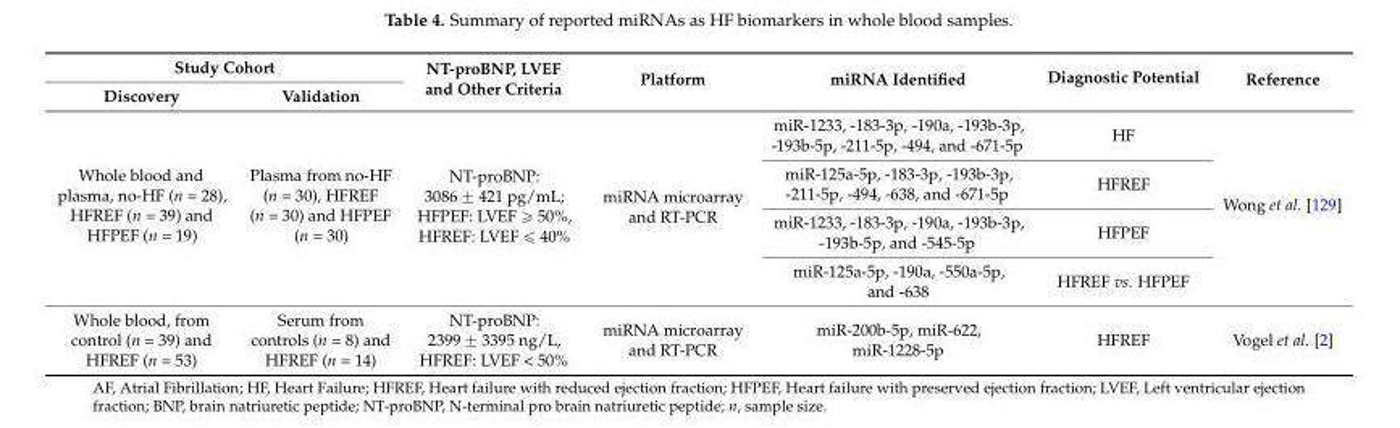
<table><thead><tr><td colspan="2">Study Cohort</td><td rowspan="2">NT-proBNP, LVEF and Other Criteria</td><td rowspan="2">Platform</td><td rowspan="2">miRNA Identified</td><td rowspan="2">Diagnostic Potential</td><td rowspan="2">Reference</td></tr><tr><td>Discovery</td><td>Validation</td></tr></thead><tbody><tr><td rowspan="4">Whole blood and plasma, no-HF (n = 28), HFREF (n = 39) and HFPEF (n = 19)</td><td rowspan="4">Plasma from no-HF (n = 30), HFREF (n = 30) and HFPEF (n = 30)</td><td rowspan="4">NT-proBNP: 3086 ˘ 421 pg/mL; HFPEF: LVEF ě 50%, HFREF: LVEF ď 40%</td><td rowspan="4">miRNA microarray and RT-PCR</td><td>miR-1233, -183-3p, -190a, -193b-3p, -193b-5p, -211-5p, -494, and -671-5p</td><td>HF</td><td rowspan="4">Wong et al. [129]</td></tr><tr><td>miR-125a-5p, -183-3p, -193b-3p, -211-5p, -494, -638, and -671-5p</td><td>HFREF</td></tr><tr><td>miR-1233, -183-3p, -190a, -193b-3p, -193b-5p, and -545-5p</td><td>HFPEF</td></tr><tr><td>miR-125a-5p, -190a, -550a-5p, and -638</td><td>HFREF vs. HFPEF</td></tr><tr><td>Whole blood, from control (n = 39) and HFREF (n = 53)</td><td>Serum from controls (n = 8) and HFREF (n = 14)</td><td>NT-proBNP: 2399 ˘ 3395 ng/L, HFREF: LVEF &lt; 50%</td><td>miRNA microarray and RT-PCR</td><td>miR-200b-5p, miR-622, miR-1228-5p</td><td>HFREF</td><td>Vogel et al. [2]</td></tr></tbody></table>